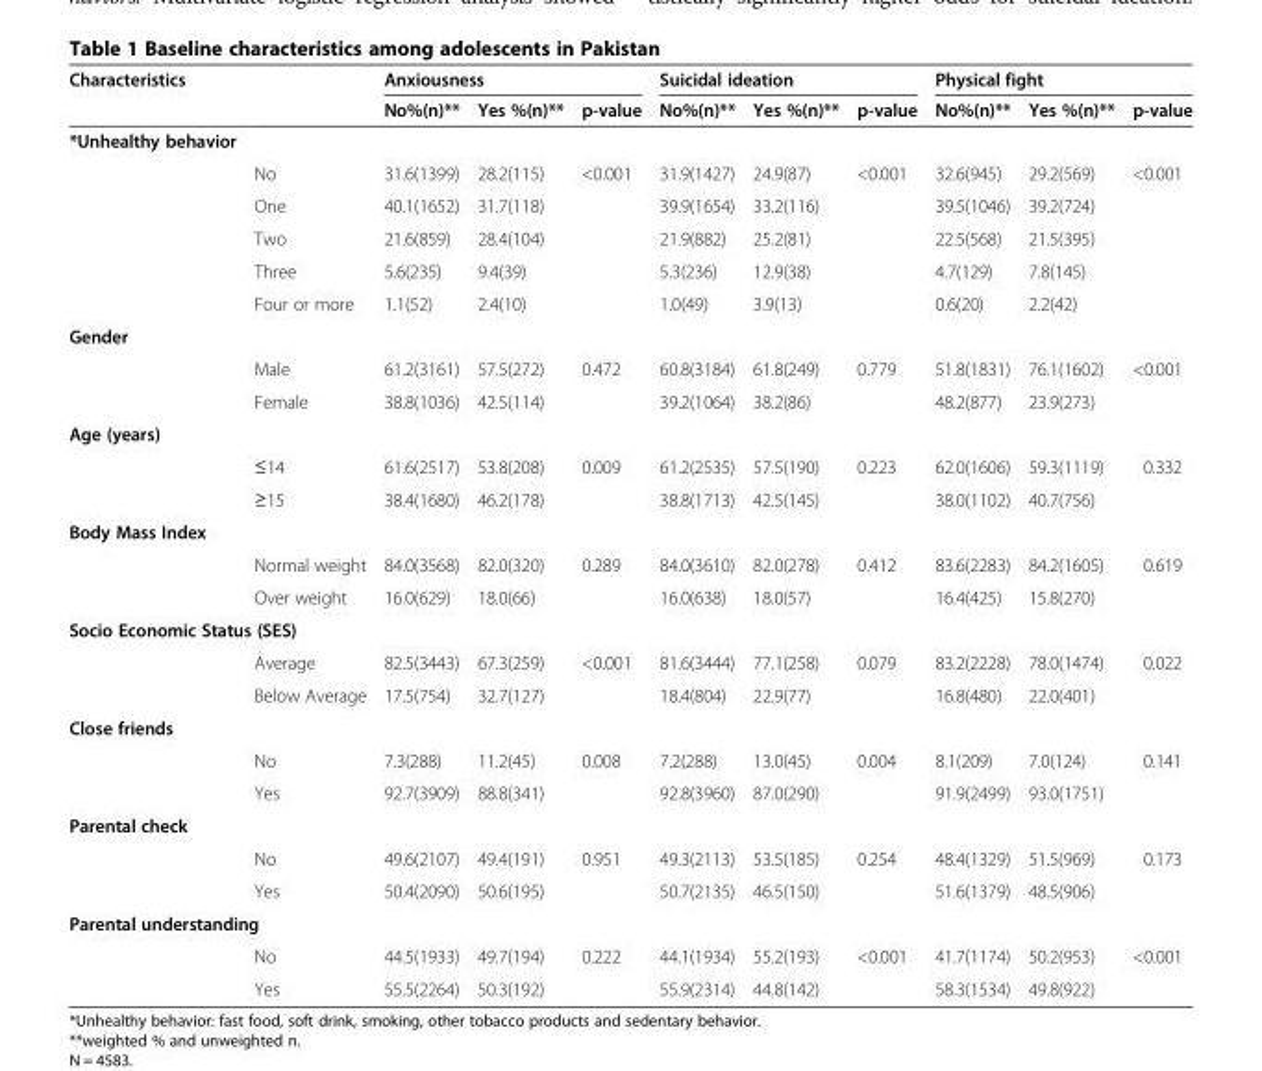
<table><thead><tr><td rowspan="2">Characteristics</td><td rowspan="2"></td><td colspan="3">Anxiousness</td><td colspan="3">Suicidal ideation</td><td colspan="3">Physical fight</td></tr><tr><td>No%(n)**</td><td>Yes %(n)**</td><td>p-value</td><td>No%(n)**</td><td>Yes %(n)**</td><td>p-value</td><td>No%(n)**</td><td>Yes %(n)**</td><td>p-value</td></tr></thead><tbody><tr><td colspan="11">*Unhealthy behavior</td></tr><tr><td></td><td>No</td><td>31.6(1399)</td><td>28.2(115)</td><td rowspan="5">&lt;0.001</td><td>31.9(1427)</td><td>24.9(87)</td><td rowspan="4">&lt;0.001</td><td>32.6(945)</td><td>29.2(569)</td><td rowspan="4">&lt;0.001</td></tr><tr><td></td><td>One</td><td>40.1(1652)</td><td>31.7(118)</td><td>39.9(1654)</td><td>33.2(116)</td><td>39.5(1046)</td><td>39.2(724)</td></tr><tr><td></td><td>Two</td><td>21.6(859)</td><td>28.4(104)</td><td>21.9(882)</td><td>25.2(81)</td><td>22.5(568)</td><td>21.5(395)</td></tr><tr><td></td><td>Three</td><td>5.6(235)</td><td>9.4(39)</td><td>5.3(236)</td><td>12.9(38)</td><td>4.7(129)</td><td>7.8(145)</td></tr><tr><td></td><td>Four or more</td><td>1.1(52)</td><td>2.4(10)</td><td>1.0(49)</td><td>3.9(13)</td><td></td><td>0.6(20)</td><td>2.2(42)</td><td></td></tr><tr><td colspan="11">Gender</td></tr><tr><td></td><td>Male</td><td>61.2(3161)</td><td>57.5(272)</td><td rowspan="2">0.472</td><td>60.8(3184)</td><td>61.8(249)</td><td rowspan="2">0.779</td><td>51.8(1831)</td><td>76.1(1602)</td><td rowspan="2">&lt;0.001</td></tr><tr><td></td><td>Female</td><td>38.8(1036)</td><td>42.5(114)</td><td>39.2(1064)</td><td>38.2(86)</td><td>48.2(877)</td><td>23.9(273)</td></tr><tr><td colspan="11">Age (years)</td></tr><tr><td></td><td>≤14</td><td>61.6(2517)</td><td>53.8(208)</td><td rowspan="2">0.009</td><td>61.2(2535)</td><td>57.5(190)</td><td rowspan="2">0.223</td><td>62.0(1606)</td><td>59.3(1119)</td><td rowspan="2">0.332</td></tr><tr><td></td><td>≥15</td><td>38.4(1680)</td><td>46.2(178)</td><td>38.8(1713)</td><td>42.5(145)</td><td>38.0(1102)</td><td>40.7(756)</td></tr><tr><td colspan="11">Body Mass Index</td></tr><tr><td></td><td>Normal weight</td><td>84.0(3568)</td><td>82.0(320)</td><td rowspan="2">0.289</td><td>84.0(3610)</td><td>82.0(278)</td><td rowspan="2">0.412</td><td>83.6(2283)</td><td>84.2(1605)</td><td rowspan="2">0.619</td></tr><tr><td></td><td>Over weight</td><td>16.0(629)</td><td>18.0(66)</td><td>16.0(638)</td><td>18.0(57)</td><td>16.4(425)</td><td>15.8(270)</td></tr><tr><td colspan="11">Socio Economic Status (SES)</td></tr><tr><td></td><td>Average</td><td>82.5(3443)</td><td>67.3(259)</td><td rowspan="2">&lt;0.001</td><td>81.6(3444)</td><td>77.1(258)</td><td rowspan="2">0.079</td><td>83.2(2228)</td><td>78.0(1474)</td><td rowspan="2">0.022</td></tr><tr><td></td><td>Below Average</td><td>17.5(754)</td><td>32.7(127)</td><td>18.4(804)</td><td>22.9(77)</td><td>16.8(480)</td><td>22.0(401)</td></tr><tr><td colspan="11">Close friends</td></tr><tr><td></td><td>No</td><td>7.3(288)</td><td>11.2(45)</td><td rowspan="2">0.008</td><td>7.2(288)</td><td>13.0(45)</td><td rowspan="2">0.004</td><td>8.1(209)</td><td>7.0(124)</td><td rowspan="2">0.141</td></tr><tr><td></td><td>Yes</td><td>92.7(3909)</td><td>88.8(341)</td><td>92.8(3960)</td><td>87.0(290)</td><td>91.9(2499)</td><td>93.0(1751)</td></tr><tr><td colspan="11">Parental check</td></tr><tr><td></td><td>No</td><td>49.6(2107)</td><td>49.4(191)</td><td rowspan="2">0.951</td><td>49.3(2113)</td><td>53.5(185)</td><td rowspan="2">0.254</td><td>48.4(1329)</td><td>51.5(969)</td><td rowspan="2">0.173</td></tr><tr><td></td><td>Yes</td><td>50.4(2090)</td><td>50.6(195)</td><td>50.7(2135)</td><td>46.5(150)</td><td>51.6(1379)</td><td>48.5(906)</td></tr><tr><td colspan="11">Parental understanding</td></tr><tr><td></td><td>No</td><td>44.5(1933)</td><td>49.7(194)</td><td rowspan="2">0.222</td><td>44.1(1934)</td><td>55.2(193)</td><td rowspan="2">&lt;0.001</td><td>41.7(1174)</td><td>50.2(953)</td><td rowspan="2">&lt;0.001</td></tr><tr><td></td><td>Yes</td><td>55.5(2264)</td><td>50.3(192)</td><td>55.9(2314)</td><td>44.8(142)</td><td>58.3(1534)</td><td>49.8(922)</td></tr></tbody></table>